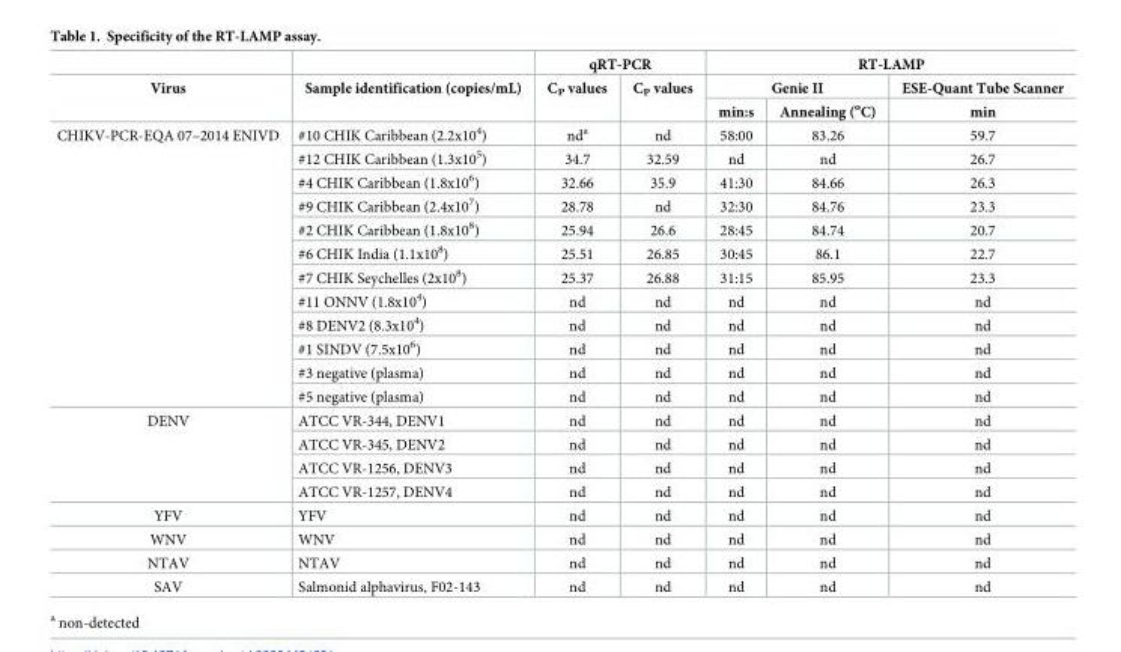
<table><thead><tr><td rowspan="3">Virus</td><td rowspan="3">Sample identification (copies/mL)</td><td colspan="2">qRT-PCR</td><td colspan="3">RT-LAMP</td></tr><tr><td rowspan="2">C<sub>P</sub> values</td><td rowspan="2">C<sub>P</sub> values</td><td colspan="2">Genie II</td><td rowspan="2">ESE-Quant Tube Scanner min</td></tr><tr><td>min:s</td><td>Annealing (<sup>o</sup>C)</td></tr></thead><tbody><tr><td rowspan="12">CHIKV-PCR-EQA 07–2014 ENIVD</td><td>#10 CHIK Caribbean (2.2x10<sup>4</sup>)</td><td>nd<sup>a</sup></td><td>nd</td><td>58:00</td><td>83.26</td><td>59.7</td></tr><tr><td>#12 CHIK Caribbean (1.3x10<sup>5</sup>)</td><td>34.7</td><td>32.59</td><td>nd</td><td>nd</td><td>26.7</td></tr><tr><td>#4 CHIK Caribbean (1.8x10<sup>6</sup>)</td><td>32.66</td><td>35.9</td><td>41:30</td><td>84.66</td><td>26.3</td></tr><tr><td>#9 CHIK Caribbean (2.4x10<sup>7</sup>)</td><td>28.78</td><td>nd</td><td>32:30</td><td>84.76</td><td>23.3</td></tr><tr><td>#2 CHIK Caribbean (1.8x10<sup>8</sup>)</td><td>25.94</td><td>26.6</td><td>28:45</td><td>84.74</td><td>20.7</td></tr><tr><td>#6 CHIK India (1.1x10<sup>8</sup>)</td><td>25.51</td><td>26.85</td><td>30:45</td><td>86.1</td><td>22.7</td></tr><tr><td>#7 CHIK Seychelles (2x10<sup>8</sup>)</td><td>25.37</td><td>26.88</td><td>31:15</td><td>85.95</td><td>23.3</td></tr><tr><td>#11 ONNV (1.8x10<sup>4</sup>)</td><td>nd</td><td>nd</td><td>nd</td><td>nd</td><td>nd</td></tr><tr><td>#8 DENV2 (8.3x10<sup>4</sup>)</td><td>nd</td><td>nd</td><td>nd</td><td>nd</td><td>nd</td></tr><tr><td>#1 SINDV (7.5x10<sup>6</sup>)</td><td>nd</td><td>nd</td><td>nd</td><td>nd</td><td>nd</td></tr><tr><td>#3 negative (plasma)</td><td>nd</td><td>nd</td><td>nd</td><td>nd</td><td>nd</td></tr><tr><td>#5 negative (plasma)</td><td>nd</td><td>nd</td><td>nd</td><td>nd</td><td>nd</td></tr><tr><td rowspan="4">DENV</td><td>ATCC VR-344, DENV1</td><td>nd</td><td>nd</td><td>nd</td><td>nd</td><td>nd</td></tr><tr><td>ATCC VR-345, DENV2</td><td>nd</td><td>nd</td><td>nd</td><td>nd</td><td>nd</td></tr><tr><td>ATCC VR-1256, DENV3</td><td>nd</td><td>nd</td><td>nd</td><td>nd</td><td>nd</td></tr><tr><td>ATCC VR-1257, DENV4</td><td>nd</td><td>nd</td><td>nd</td><td>nd</td><td>nd</td></tr><tr><td>YFV</td><td>YFV</td><td>nd</td><td>nd</td><td>nd</td><td>nd</td><td>nd</td></tr><tr><td>WNV</td><td>WNV</td><td>nd</td><td>nd</td><td>nd</td><td>nd</td><td>nd</td></tr><tr><td>NTAV</td><td>NTAV</td><td>nd</td><td>nd</td><td>nd</td><td>nd</td><td>nd</td></tr><tr><td>SAV</td><td>Salmonid alphavirus, F02-143</td><td>nd</td><td>nd</td><td>nd</td><td>nd</td><td>nd</td></tr></tbody></table>